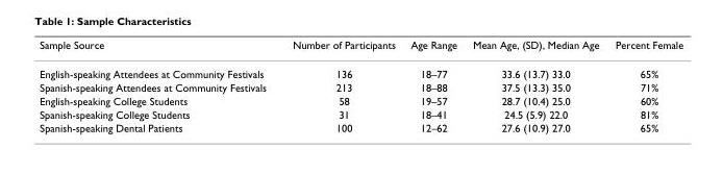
<table><thead><tr><td>Sample Source</td><td>Number of Participants</td><td>Age Range</td><td>Mean Age, (SD), Median Age</td><td>Percent Female</td></tr></thead><tbody><tr><td>English-speaking Attendees at Community Festivals</td><td>136</td><td>18–77</td><td>33.6 (13.7) 33.0</td><td>65%</td></tr><tr><td>Spanish-speaking Attendees at Community Festivals</td><td>213</td><td>18–88</td><td>37.5 (13.3) 35.0</td><td>71%</td></tr><tr><td>English-speaking College Students</td><td>58</td><td>19–57</td><td>28.7 (10.4) 25.0</td><td>60%</td></tr><tr><td>Spanish-speaking College Students</td><td>31</td><td>18–41</td><td>24.5 (5.9) 22.0</td><td>81%</td></tr><tr><td>Spanish-speaking Dental Patients</td><td>100</td><td>12–62</td><td>27.6 (10.9) 27.0</td><td>65%</td></tr></tbody></table>